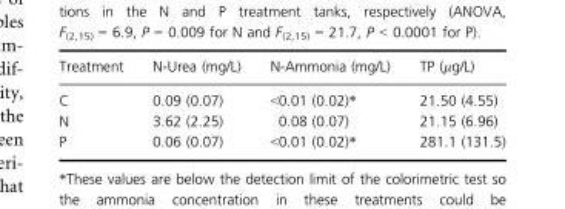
<table><thead><tr><td>Treatment</td><td>N-Urea (mg/L)</td><td>N-Ammonia (mg/L)</td><td>TP (μg/L)</td></tr></thead><tbody><tr><td>C</td><td>0.09 (0.07)</td><td>&lt;0.01 (0.02)*</td><td>21.50 (4.55)</td></tr><tr><td>N</td><td>3.62 (2.25)</td><td>0.08 (0.07)</td><td>21.15 (6.96)</td></tr><tr><td>P</td><td>0.06 (0.07)</td><td>&lt;0.01 (0.02)*</td><td>281.1 (131.5)</td></tr></tbody></table>